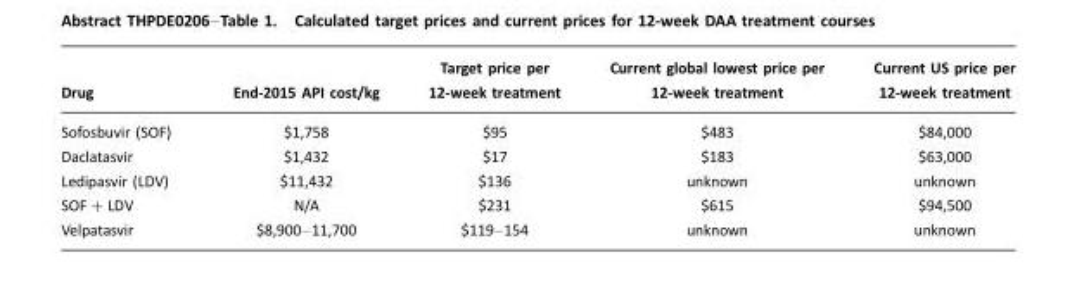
<table><thead><tr><td>Drug</td><td>End-2015 API cost/kg</td><td>Target price per 12-week treatment</td><td>Current global lowest price per 12-week treatment</td><td>Current US price per 12-week treatment</td></tr></thead><tbody><tr><td>Sofosbuvir (SOF)</td><td>$1,758</td><td>$95</td><td>$483</td><td>$84,000</td></tr><tr><td>Daclatasvir</td><td>$1,432</td><td>$17</td><td>$183</td><td>$63,000</td></tr><tr><td>Ledipasvir (LDV)</td><td>$11,432</td><td>$136</td><td>unknown</td><td>unknown</td></tr><tr><td>SOF+LDV</td><td>N/A</td><td>$231</td><td>$615</td><td>$94,500</td></tr><tr><td>Velpatasvir</td><td>$8,900–11,700</td><td>$119–154</td><td>unknown</td><td>unknown</td></tr></tbody></table>